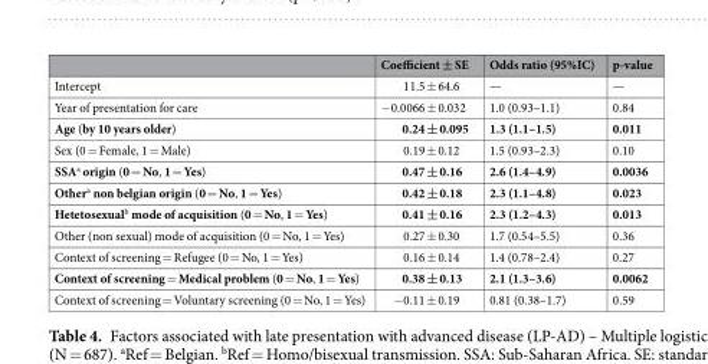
<table><thead><tr><td></td><td>Coefficient ± SE</td><td>Odds ratio (95%IC)</td><td>p-value</td></tr></thead><tbody><tr><td>Intercept</td><td>11.5 ± 64.6</td><td>—</td><td>—</td></tr><tr><td>Year of presentation for care</td><td>−0.0066 ± 0.032</td><td>1.0 (0.93–1.1)</td><td>0.84</td></tr><tr><td>Age (by 10 years older)</td><td>0.24 ± 0.095</td><td>1.3 (1.1–1.5)</td><td>0.011</td></tr><tr><td>Sex (0 = Female, 1 = Male)</td><td>0.19 ± 0.12</td><td>1.5 (0.93–2.3)</td><td>0.10</td></tr><tr><td>SSA<sup>a</sup> origin (0 = No, 1 = Yes)</td><td>0.47 ± 0.16</td><td>2.6 (1.4–4.9)</td><td>0.0036</td></tr><tr><td>Other<sup>a</sup> non belgian origin (0 = No, 1 = Yes)</td><td>0.42 ± 0.18</td><td>2.3 (1.1–4.8)</td><td>0.023</td></tr><tr><td>Hetetosexual<sup>b</sup> mode of acquisition (0 = No, 1 = Yes)</td><td>0.41 ± 0.16</td><td>2.3 (1.2–4.3)</td><td>0.013</td></tr><tr><td>Other (non sexual) mode of acquisition (0 = No, 1 = Yes)</td><td>0.27 ± 0.30</td><td>1.7 (0.54–5.5)</td><td>0.36</td></tr><tr><td>Context of screening = Refugee (0 = No, 1 = Yes)</td><td>0.16 ± 0.14</td><td>1.4 (0.78–2.4)</td><td>0.27</td></tr><tr><td>Context of screening = Medical problem (0 = No, 1 = Yes)</td><td>0.38 ± 0.13</td><td>2.1 (1.3–3.6)</td><td>0.0062</td></tr><tr><td>Context of screening = Voluntary screening (0 = No, 1 = Yes)</td><td>−0.11 ± 0.19</td><td>0.81 (0.38–1.7)</td><td>0.59</td></tr></tbody></table>